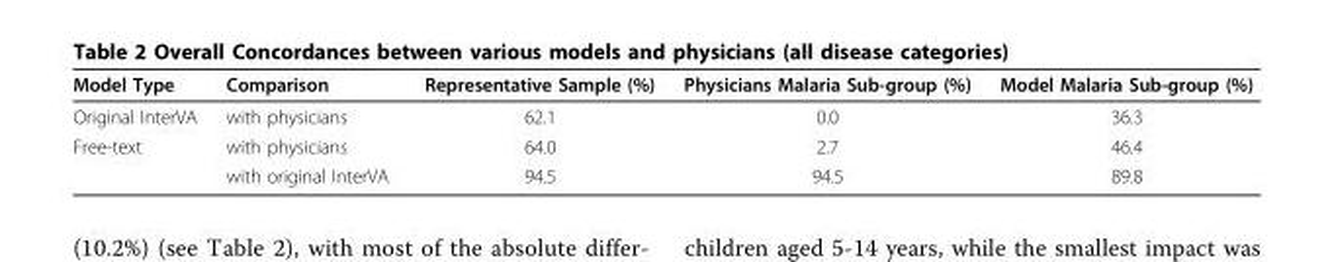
<table><thead><tr><td>Model Type</td><td>Comparison</td><td>Representative Sample (%)</td><td>Physicians Malaria Sub-group (%)</td><td>Model Malaria Sub-group (%)</td></tr></thead><tbody><tr><td>Original InterVA</td><td>with physicians</td><td>62.1</td><td>0.0</td><td>36.3</td></tr><tr><td rowspan="2">Free-text</td><td>with physicians</td><td>64.0</td><td>2.7</td><td>46.4</td></tr><tr><td>with original InterVA</td><td>94.5</td><td>94.5</td><td>89.8</td></tr></tbody></table>